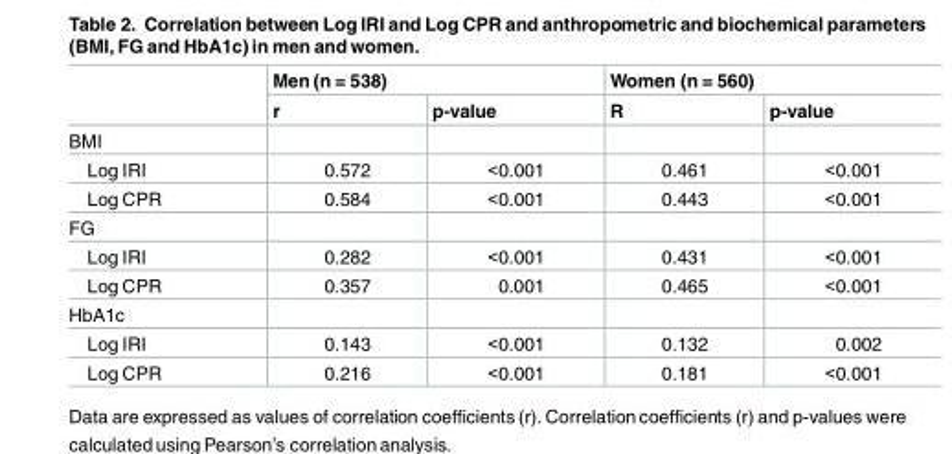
<table><thead><tr><td rowspan="2"></td><td colspan="2">Men (n = 538)</td><td colspan="2">Women (n = 560)</td></tr><tr><td>r</td><td>p-value</td><td>R</td><td>p-value</td></tr></thead><tbody><tr><td colspan="5">BMI</td></tr><tr><td>Log IRI</td><td>0.572</td><td>&lt;0.001</td><td>0.461</td><td>&lt;0.001</td></tr><tr><td>Log CPR</td><td>0.584</td><td>&lt;0.001</td><td>0.443</td><td>&lt;0.001</td></tr><tr><td colspan="5">FG</td></tr><tr><td>Log IRI</td><td>0.282</td><td>&lt;0.001</td><td>0.431</td><td>&lt;0.001</td></tr><tr><td>Log CPR</td><td>0.357</td><td>0.001</td><td>0.465</td><td>&lt;0.001</td></tr><tr><td colspan="5">HbA1c</td></tr><tr><td>Log IRI</td><td>0.143</td><td>&lt;0.001</td><td>0.132</td><td>0.002</td></tr><tr><td>Log CPR</td><td>0.216</td><td>&lt;0.001</td><td>0.181</td><td>&lt;0.001</td></tr></tbody></table>